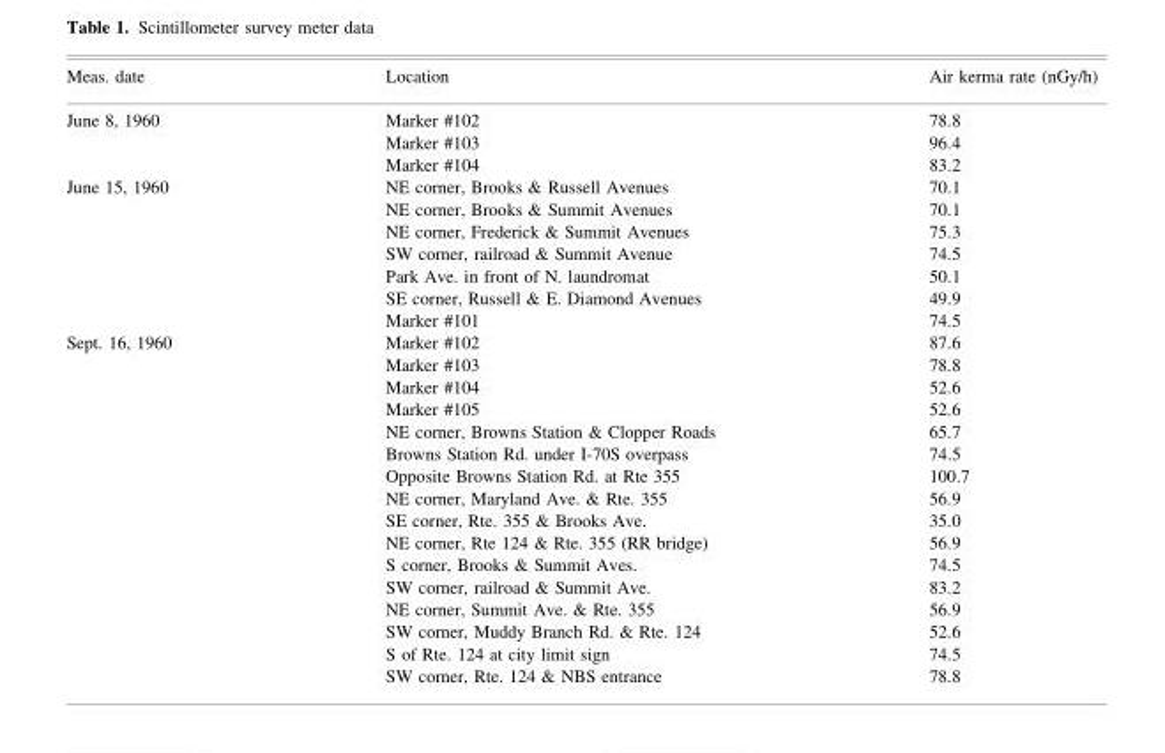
<table><thead><tr><td>Meas. date</td><td>Location</td><td>Air kerma rate (nGy/h)</td></tr></thead><tbody><tr><td rowspan="3">June 8, 1960</td><td>Marker #102</td><td>78.8</td></tr><tr><td>Marker #103</td><td>96.4</td></tr><tr><td>Marker #104</td><td>83.2</td></tr><tr><td rowspan="7">June 15, 1960</td><td>NE corner, Brooks &amp; Russell Avenues</td><td>70.1</td></tr><tr><td>NE corner, Brooks &amp; Summit Avenues</td><td>70.1</td></tr><tr><td>NE corner, Frederick &amp; Summit Avenues</td><td>75.3</td></tr><tr><td>SW corner, railroad &amp; Summit Avenue</td><td>74.5</td></tr><tr><td>Park Ave. in front of N. laundromat</td><td>50.1</td></tr><tr><td>SE corner, Russell &amp; E. Diamond Avenues</td><td>49.9</td></tr><tr><td>Marker #101</td><td>74.5</td></tr><tr><td rowspan="16">Sept. 16, 1960</td><td>Marker #102</td><td>87.6</td></tr><tr><td>Marker #103</td><td>78.8</td></tr><tr><td>Marker #104</td><td>52.6</td></tr><tr><td>Marker #105</td><td>52.6</td></tr><tr><td>NE corner, Browns Station &amp; Clopper Roads</td><td>65.7</td></tr><tr><td>Browns Station Rd. under I-70S overpass</td><td>74.5</td></tr><tr><td>Opposite Browns Station Rd. at Rte 355</td><td>100.7</td></tr><tr><td>NE corner, Maryland Ave. &amp; Rte. 355</td><td>56.9</td></tr><tr><td>SE corner, Rte. 355 &amp; Brooks Ave.</td><td>35.0</td></tr><tr><td>NE corner, Rte 124 &amp; Rte. 355 (RR bridge)</td><td>56.9</td></tr><tr><td>S corner, Brooks &amp; Summit Aves.</td><td>74.5</td></tr><tr><td>SW corner, railroad &amp; Summit Ave.</td><td>83.2</td></tr><tr><td>NE corner, Summit Ave. &amp; Rte. 355</td><td>56.9</td></tr><tr><td>SW corner, Muddy Branch Rd. &amp; Rte. 124</td><td>52.6</td></tr><tr><td>S of Rte. 124 at city limit sign</td><td>74.5</td></tr><tr><td>SW corner, Rte. 124 &amp; NBS entrance</td><td>78.8</td></tr></tbody></table>